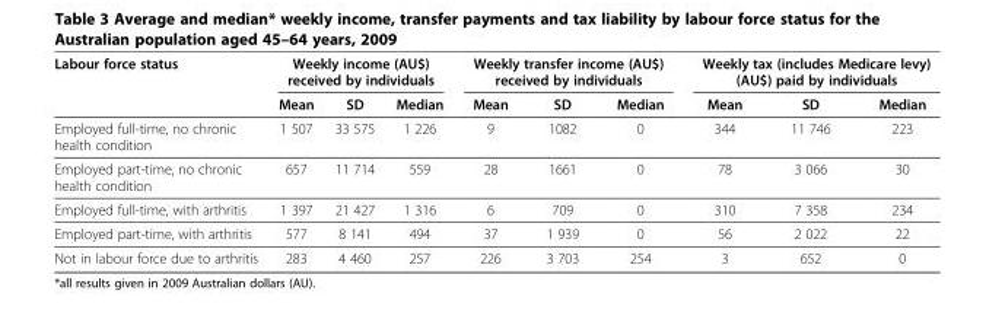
<table><thead><tr><td rowspan="2">Labour force status</td><td colspan="3">Weekly income (AU$) received by individuals</td><td colspan="3">Weekly transfer income (AU$) received by individuals</td><td colspan="3">Weekly tax (includes Medicare levy) (AU$) paid by individuals</td></tr><tr><td>Mean</td><td>SD</td><td>Median</td><td>Mean</td><td>SD</td><td>Median</td><td>Mean</td><td>SD</td><td>Median</td></tr></thead><tbody><tr><td>Employed full-time, no chronic health condition</td><td>1 507</td><td>33 575</td><td>1 226</td><td>9</td><td>1082</td><td>0</td><td>344</td><td>11 746</td><td>223</td></tr><tr><td>Employed part-time, no chronic health condition</td><td>657</td><td>11 714</td><td>559</td><td>28</td><td>1661</td><td>0</td><td>78</td><td>3 066</td><td>30</td></tr><tr><td>Employed full-time, with arthritis</td><td>1 397</td><td>21 427</td><td>1 316</td><td>6</td><td>709</td><td>0</td><td>310</td><td>7 358</td><td>234</td></tr><tr><td>Employed part-time, with arthritis</td><td>577</td><td>8 141</td><td>494</td><td>37</td><td>1 939</td><td>0</td><td>56</td><td>2 022</td><td>22</td></tr><tr><td>Not in labour force due to arthritis</td><td>283</td><td>4 460</td><td>257</td><td>226</td><td>3 703</td><td>254</td><td>3</td><td>652</td><td>0</td></tr></tbody></table>